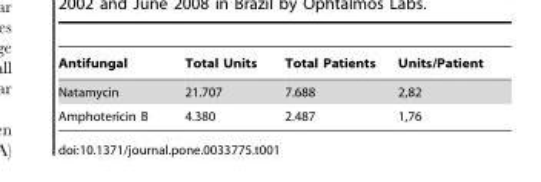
<table><thead><tr><td>Antifungal</td><td>Total Units</td><td>Total Patients</td><td>Units/Patient</td></tr></thead><tbody><tr><td>Natamycin</td><td>21.707</td><td>7.688</td><td>2,82</td></tr><tr><td>Amphotericin B</td><td>4.380</td><td>2.487</td><td>1,76</td></tr></tbody></table>